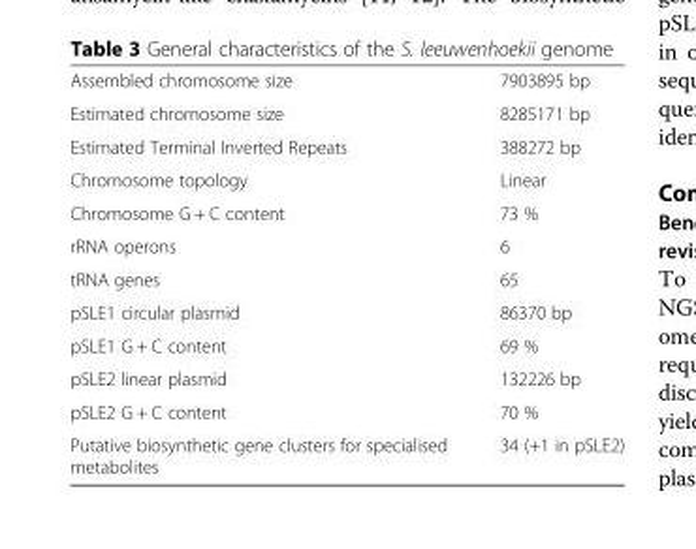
<table><tbody><tr><td>Assembled chromosome size</td><td>7903895 bp</td></tr><tr><td>Estimated chromosome size</td><td>8285171 bp</td></tr><tr><td>Estimated Terminal Inverted Repeats</td><td>388272 bp</td></tr><tr><td>Chromosome topology</td><td>Linear</td></tr><tr><td>Chromosome G + C content</td><td>73 %</td></tr><tr><td>rRNA operons</td><td>6</td></tr><tr><td>tRNA genes</td><td>65</td></tr><tr><td>pSLE1 circular plasmid</td><td>86370 bp</td></tr><tr><td>pSLE1 G + C content</td><td>69 %</td></tr><tr><td>pSLE2 linear plasmid</td><td>132226 bp</td></tr><tr><td>pSLE2 G + C content</td><td>70 %</td></tr><tr><td>Putative biosynthetic gene clusters for specialised metabolites</td><td>34 (+1 in pSLE2)</td></tr></tbody></table>